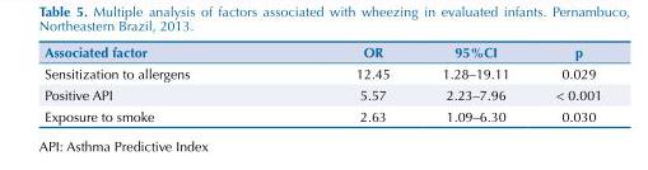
<table><thead><tr><td>Associated factor</td><td>OR</td><td>95%CI</td><td>p</td></tr></thead><tbody><tr><td>Sensitization to allergens</td><td>12.45</td><td>1.28–19.11</td><td>0.029</td></tr><tr><td>Positive API</td><td>5.57</td><td>2.23–7.96</td><td>&lt; 0.001</td></tr><tr><td>Exposure to smoke</td><td>2.63</td><td>1.09–6.30</td><td>0.030</td></tr></tbody></table>